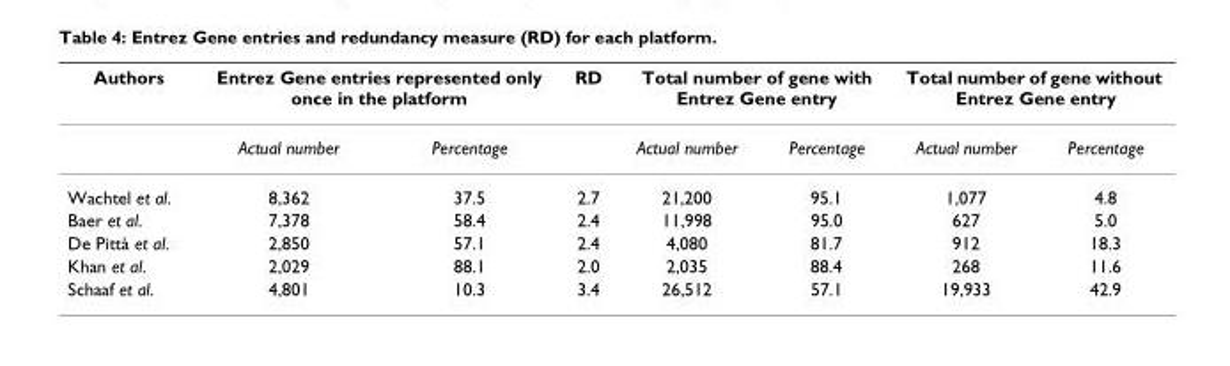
<table><thead><tr><td rowspan="2">Authors</td><td colspan="2">Entrez Gene entries represented only once in the platform</td><td rowspan="2">RD</td><td colspan="2">Total number of gene with Entrez Gene entry</td><td colspan="2">Total number of gene without Entrez Gene entry</td></tr><tr><td>Actual number</td><td>Percentage</td><td>Actual number</td><td>Percentage</td><td>Actual number</td><td>Percentage</td></tr></thead><tbody><tr><td>Wachtel et al.</td><td>8,362</td><td>37.5</td><td>2.7</td><td>21,200</td><td>95.1</td><td>1,077</td><td>4.8</td></tr><tr><td>Baer et al.</td><td>7,378</td><td>58.4</td><td>2.4</td><td>11,998</td><td>95.0</td><td>627</td><td>5.0</td></tr><tr><td>De Pittà et al.</td><td>2,850</td><td>57.1</td><td>2.4</td><td>4,080</td><td>81.7</td><td>912</td><td>18.3</td></tr><tr><td>Khan et al.</td><td>2,029</td><td>88.1</td><td>2.0</td><td>2,035</td><td>88.4</td><td>268</td><td>11.6</td></tr><tr><td>Schaaf et al.</td><td>4,801</td><td>10.3</td><td>3.4</td><td>26,512</td><td>57.1</td><td>19,933</td><td>42.9</td></tr></tbody></table>